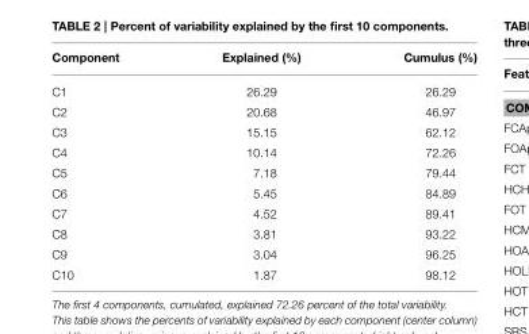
<table><thead><tr><td>Component</td><td>Explained (%)</td><td>Cumulus (%)</td></tr></thead><tbody><tr><td>C1</td><td>26.29</td><td>26.29</td></tr><tr><td>C2</td><td>20.68</td><td>46.97</td></tr><tr><td>C3</td><td>15.15</td><td>62.12</td></tr><tr><td>C4</td><td>10.14</td><td>72.26</td></tr><tr><td>C5</td><td>7.18</td><td>79.44</td></tr><tr><td>C6</td><td>5.45</td><td>84.89</td></tr><tr><td>C7</td><td>4.52</td><td>89.41</td></tr><tr><td>C8</td><td>3.81</td><td>93.22</td></tr><tr><td>C9</td><td>3.04</td><td>96.25</td></tr><tr><td>C10</td><td>1.87</td><td>98.12</td></tr></tbody></table>